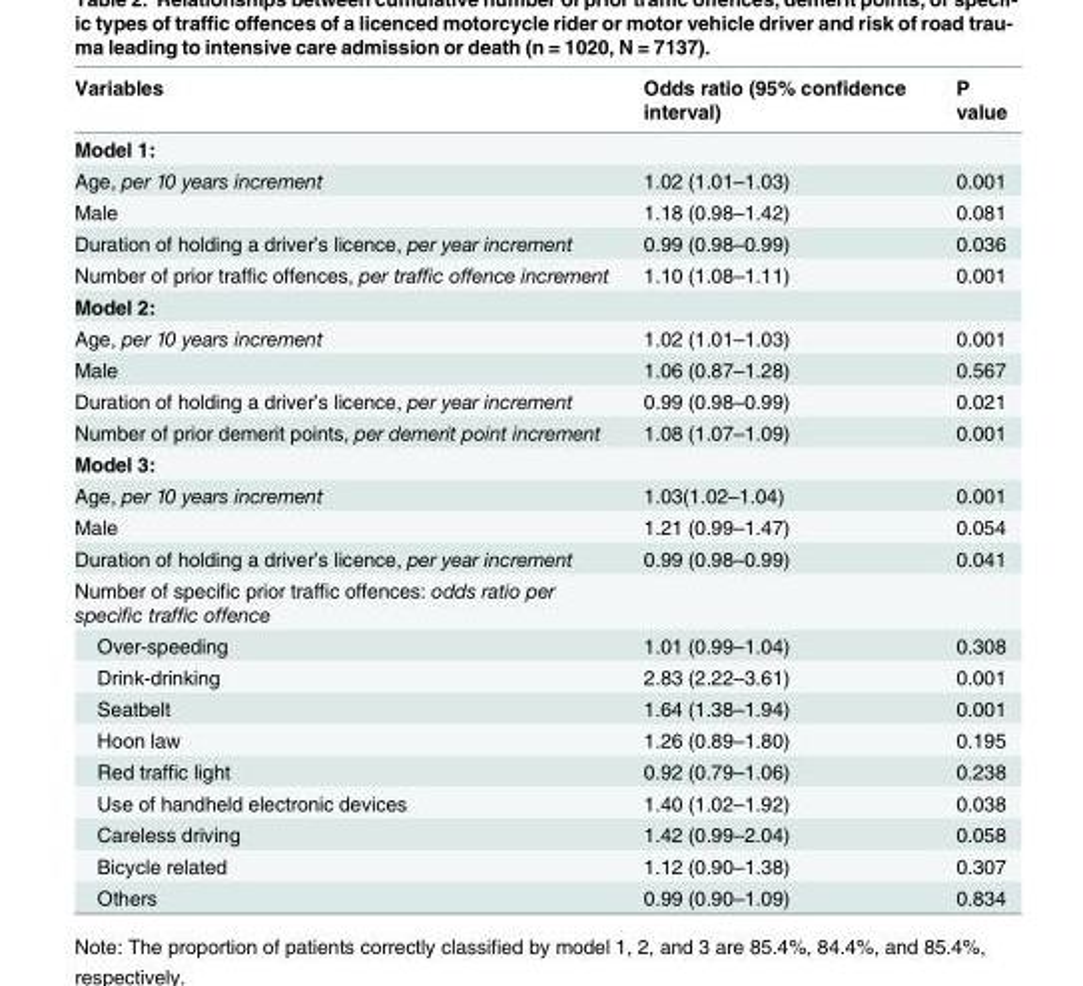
<table><thead><tr><td>Variables</td><td>Odds ratio (95% confidence interval)</td><td>P value</td></tr></thead><tbody><tr><td colspan="3">Model 1:</td></tr><tr><td>Age, per 10 years increment</td><td>1.02 (1.01–1.03)</td><td>0.001</td></tr><tr><td>Male</td><td>1.18 (0.98–1.42)</td><td>0.081</td></tr><tr><td>Duration of holding a driver’s licence, per year increment</td><td>0.99 (0.98–0.99)</td><td>0.036</td></tr><tr><td>Number of prior traffic offences, per traffic offence increment</td><td>1.10 (1.08–1.11)</td><td>0.001</td></tr><tr><td colspan="3">Model 2:</td></tr><tr><td>Age, per 10 years increment</td><td>1.02 (1.01–1.03)</td><td>0.001</td></tr><tr><td>Male</td><td>1.06 (0.87–1.28)</td><td>0.567</td></tr><tr><td>Duration of holding a driver’s licence, per year increment</td><td>0.99 (0.98–0.99)</td><td>0.021</td></tr><tr><td>Number of prior demerit points, per demerit point increment</td><td>1.08 (1.07–1.09)</td><td>0.001</td></tr><tr><td colspan="3">Model 3:</td></tr><tr><td>Age, per 10 years increment</td><td>1.03(1.02–1.04)</td><td>0.001</td></tr><tr><td>Male</td><td>1.21 (0.99–1.47)</td><td>0.054</td></tr><tr><td>Duration of holding a driver’s licence, per year increment</td><td>0.99 (0.98–0.99)</td><td>0.041</td></tr><tr><td colspan="3">Number of specific prior traffic offences: odds ratio per specific traffic offence</td></tr><tr><td>Over-speeding</td><td>1.01 (0.99–1.04)</td><td>0.308</td></tr><tr><td>Drink-drinking</td><td>2.83 (2.22–3.61)</td><td>0.001</td></tr><tr><td>Seatbelt</td><td>1.64 (1.38–1.94)</td><td>0.001</td></tr><tr><td>Hoon law</td><td>1.26 (0.89–1.80)</td><td>0.195</td></tr><tr><td>Red traffic light</td><td>0.92 (0.79–1.06)</td><td>0.238</td></tr><tr><td>Use of handheld electronic devices</td><td>1.40 (1.02–1.92)</td><td>0.038</td></tr><tr><td>Careless driving</td><td>1.42 (0.99–2.04)</td><td>0.058</td></tr><tr><td>Bicycle related</td><td>1.12 (0.90–1.38)</td><td>0.307</td></tr><tr><td>Others</td><td>0.99 (0.90–1.09)</td><td>0.834</td></tr></tbody></table>